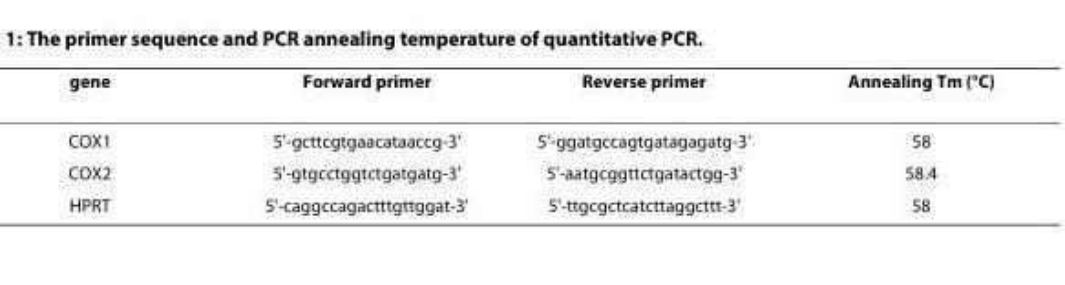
<table><thead><tr><td>gene</td><td>Forward primer</td><td>Reverse primer</td><td>Annealing Tm (°C)</td></tr></thead><tbody><tr><td>COX1</td><td>5&#x27;-gcttcgtgaacataaccg-3&#x27;</td><td>5&#x27;-ggatgccagtgatagagatg-3&#x27;</td><td>58</td></tr><tr><td>COX2</td><td>5&#x27;-gtgcctggtctgatgatg-3&#x27;</td><td>5&#x27;-aatgcggttctgatactgg-3&#x27;</td><td>58.4</td></tr><tr><td>HPRT</td><td>5&#x27;-caggccagactttgttggat-3&#x27;</td><td>5&#x27;-ttgcgctcatcttaggcttt-3&#x27;</td><td>58</td></tr></tbody></table>